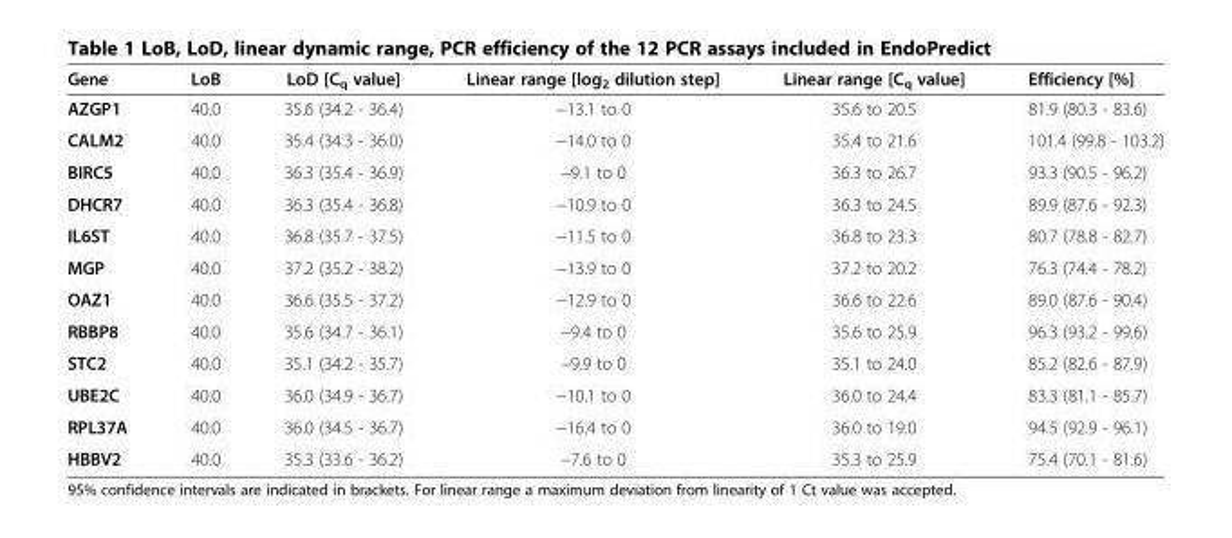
<table><thead><tr><td>Gene</td><td>LoB</td><td>LoD [C<sub>q</sub> value]</td><td>Linear range [log<sub>2</sub> dilution step]</td><td>Linear range [C<sub>q</sub> value]</td><td>Efficiency [%]</td></tr></thead><tbody><tr><td>AZGP1</td><td>40.0</td><td>35.6 (34.2 - 36.4)</td><td>−13.1 to 0</td><td>35.6 to 20.5</td><td>81.9 (80.3 - 83.6)</td></tr><tr><td>CALM2</td><td>40.0</td><td>35.4 (34.3 - 36.0)</td><td>−14.0 to 0</td><td>35.4 to 21.6</td><td>101.4 (99.8 - 103.2)</td></tr><tr><td>BIRC5</td><td>40.0</td><td>36.3 (35.4 - 36.9)</td><td>−9.1 to 0</td><td>36.3 to 26.7</td><td>93.3 (90.5 - 96.2)</td></tr><tr><td>DHCR7</td><td>40.0</td><td>36.3 (35.4 - 36.8)</td><td>−10.9 to 0</td><td>36.3 to 24.5</td><td>89.9 (87.6 - 92.3)</td></tr><tr><td>IL6ST</td><td>40.0</td><td>36.8 (35.7 - 37.5)</td><td>−11.5 to 0</td><td>36.8 to 23.3</td><td>80.7 (78.8 - 82.7)</td></tr><tr><td>MGP</td><td>40.0</td><td>37.2 (35.2 - 38.2)</td><td>−13.9 to 0</td><td>37.2 to 20.2</td><td>76.3 (74.4 - 78.2)</td></tr><tr><td>OAZ1</td><td>40.0</td><td>36.6 (35.5 - 37.2)</td><td>−12.9 to 0</td><td>36.6 to 22.6</td><td>89.0 (87.6 - 90.4)</td></tr><tr><td>RBBP8</td><td>40.0</td><td>35.6 (34.7 - 36.1)</td><td>−9.4 to 0</td><td>35.6 to 25.9</td><td>96.3 (93.2 - 99.6)</td></tr><tr><td>STC2</td><td>40.0</td><td>35.1 (34.2 - 35.7)</td><td>−9.9 to 0</td><td>35.1 to 24.0</td><td>85.2 (82.6 - 87.9)</td></tr><tr><td>UBE2C</td><td>40.0</td><td>36.0 (34.9 - 36.7)</td><td>−10.1 to 0</td><td>36.0 to 24.4</td><td>83.3 (81.1 - 85.7)</td></tr><tr><td>RPL37A</td><td>40.0</td><td>36.0 (34.5 - 36.7)</td><td>−16.4 to 0</td><td>36.0 to 19.0</td><td>94.5 (92.9 - 96.1)</td></tr><tr><td>HBBV2</td><td>40.0</td><td>35.3 (33.6 - 36.2)</td><td>−7.6 to 0</td><td>35.3 to 25.9</td><td>75.4 (70.1 - 81.6)</td></tr></tbody></table>